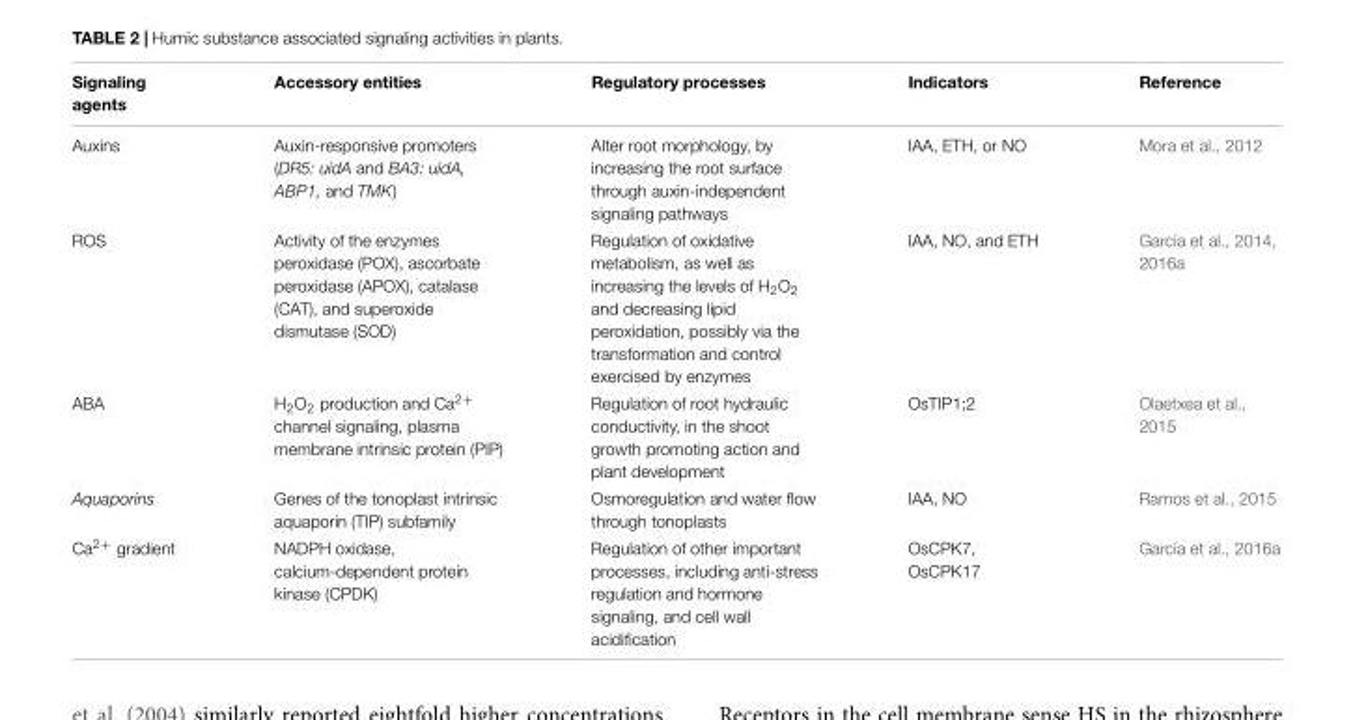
<table><thead><tr><td>Signaling agents</td><td>Accessory entities</td><td>Regulatory processes</td><td>Indicators</td><td>Reference</td></tr></thead><tbody><tr><td>Auxins</td><td>Auxin-responsive promoters (DR5: uidA and BA3: uidA, ABP1, and TMK)</td><td>Alter root morphology, by increasing the root surface through auxin-independent signaling pathways</td><td>IAA, ETH, or NO</td><td>Mora et al., 2012</td></tr><tr><td>ROS</td><td>Activity of the enzymes peroxidase (POX), ascorbate peroxidase (APOX), catalase (CAT), and superoxide dismutase (SOD)</td><td>Regulation of oxidative metabolism, as well as increasing the levels of H<sub>2</sub>O<sub>2</sub> and decreasing lipid peroxidation, possibly via the transformation and control exercised by enzymes</td><td>IAA, NO, and ETH</td><td>García et al., 2014, 2016a</td></tr><tr><td>ABA</td><td>H<sub>2</sub>O<sub>2</sub> production and Ca<sup>2+</sup> channel signaling, plasma membrane intrinsic protein (PIP)</td><td>Regulation of root hydraulic conductivity, in the shoot growth promoting action and plant development</td><td>OsTIP1;2</td><td>Olaetxea et al., 2015</td></tr><tr><td>Aquaporins</td><td>Genes of the tonoplast intrinsic aquaporin (TIP) subfamily</td><td>Osmoregulation and water flow through tonoplasts</td><td>IAA, NO</td><td>Ramos et al., 2015</td></tr><tr><td>Ca<sup>2+</sup> gradient</td><td>NADPH oxidase, calcium-dependent protein kinase (CPDK)</td><td>Regulation of other important processes, including anti-stress regulation and hormone signaling, and cell wall acidification</td><td>OsCPK7, OsCPK17</td><td>García et al., 2016a</td></tr></tbody></table>